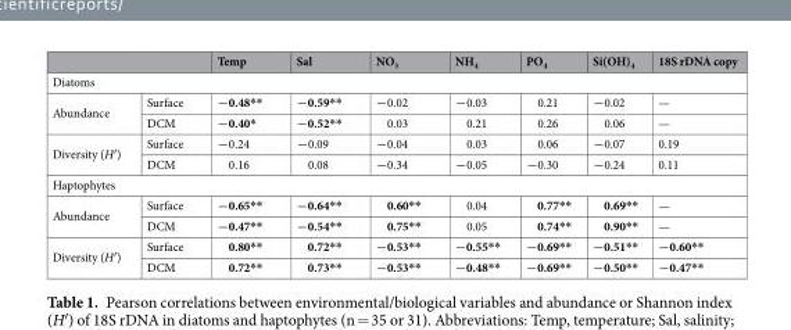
<table><thead><tr><td></td><td></td><td>Temp</td><td>Sal</td><td>NO<sub>3</sub></td><td>NH<sub>4</sub></td><td>PO<sub>4</sub></td><td>Si(OH)<sub>4</sub></td><td>18S rDNA copy</td></tr></thead><tbody><tr><td colspan="9">Diatoms</td></tr><tr><td rowspan="2">Abundance</td><td>Surface</td><td>−0.48**</td><td>−0.59**</td><td>−0.02</td><td>−0.03</td><td>0.21</td><td>−0.02</td><td>—</td></tr><tr><td>DCM</td><td>−0.40*</td><td>−0.52**</td><td>0.03</td><td>0.21</td><td>0.26</td><td>0.06</td><td>—</td></tr><tr><td rowspan="2">Diversity (H′)</td><td>Surface</td><td>−0.24</td><td>−0.09</td><td>−0.04</td><td>0.03</td><td>0.06</td><td>−0.07</td><td>0.19</td></tr><tr><td>DCM</td><td>0.16</td><td>0.08</td><td>−0.34</td><td>−0.05</td><td>−0.30</td><td>−0.24</td><td>0.11</td></tr><tr><td colspan="9">Haptophytes</td></tr><tr><td rowspan="2">Abundance</td><td>Surface</td><td>−0.65**</td><td>−0.64**</td><td>0.60**</td><td>0.04</td><td>0.77**</td><td>0.69**</td><td>—</td></tr><tr><td>DCM</td><td>−0.47**</td><td>−0.54**</td><td>0.75**</td><td>0.05</td><td>0.74**</td><td>0.90**</td><td>—</td></tr><tr><td rowspan="2">Diversity (H′)</td><td>Surface</td><td>0.80**</td><td>0.72**</td><td>−0.53**</td><td>−0.55**</td><td>−0.69**</td><td>−0.51**</td><td>−0.60**</td></tr><tr><td>DCM</td><td>0.72**</td><td>0.73**</td><td>−0.53**</td><td>−0.48**</td><td>−0.69**</td><td>−0.50**</td><td>−0.47**</td></tr></tbody></table>